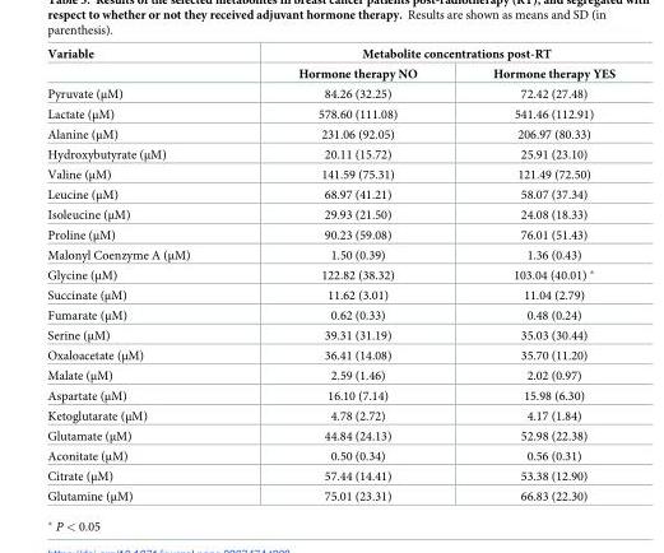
<table><thead><tr><td rowspan="2">Variable</td><td colspan="2">Metabolite concentrations post-RT</td></tr><tr><td>Hormone therapy NO</td><td>Hormone therapy YES</td></tr></thead><tbody><tr><td>Pyruvate (μM)</td><td>84.26 (32.25)</td><td>72.42 (27.48)</td></tr><tr><td>Lactate (μM)</td><td>578.60 (111.08)</td><td>541.46 (112.91)</td></tr><tr><td>Alanine (μM)</td><td>231.06 (92.05)</td><td>206.97 (80.33)</td></tr><tr><td>Hydroxybutyrate (μM)</td><td>20.11 (15.72)</td><td>25.91 (23.10)</td></tr><tr><td>Valine (μM)</td><td>141.59 (75.31)</td><td>121.49 (72.50)</td></tr><tr><td>Leucine (μM)</td><td>68.97 (41.21)</td><td>58.07 (37.34)</td></tr><tr><td>Isoleucine (μM)</td><td>29.93 (21.50)</td><td>24.08 (18.33)</td></tr><tr><td>Proline (μM)</td><td>90.23 (59.08)</td><td>76.01 (51.43)</td></tr><tr><td>Malonyl Coenzyme A (μM)</td><td>1.50 (0.39)</td><td>1.36 (0.43)</td></tr><tr><td>Glycine (μM)</td><td>122.82 (38.32)</td><td>103.04 (40.01) *</td></tr><tr><td>Succinate (μM)</td><td>11.62 (3.01)</td><td>11.04 (2.79)</td></tr><tr><td>Fumarate (μM)</td><td>0.62 (0.33)</td><td>0.48 (0.24)</td></tr><tr><td>Serine (μM)</td><td>39.31 (31.19)</td><td>35.03 (30.44)</td></tr><tr><td>Oxaloacetate (μM)</td><td>36.41 (14.08)</td><td>35.70 (11.20)</td></tr><tr><td>Malate (μM)</td><td>2.59 (1.46)</td><td>2.02 (0.97)</td></tr><tr><td>Aspartate (μM)</td><td>16.10 (7.14)</td><td>15.98 (6.30)</td></tr><tr><td>Ketoglutarate (μM)</td><td>4.78 (2.72)</td><td>4.17 (1.84)</td></tr><tr><td>Glutamate (μM)</td><td>44.84 (24.13)</td><td>52.98 (22.38)</td></tr><tr><td>Aconitate (μM)</td><td>0.50 (0.34)</td><td>0.56 (0.31)</td></tr><tr><td>Citrate (μM)</td><td>57.44 (14.41)</td><td>53.38 (12.90)</td></tr><tr><td>Glutamine (μM)</td><td>75.01 (23.31)</td><td>66.83 (22.30)</td></tr></tbody></table>